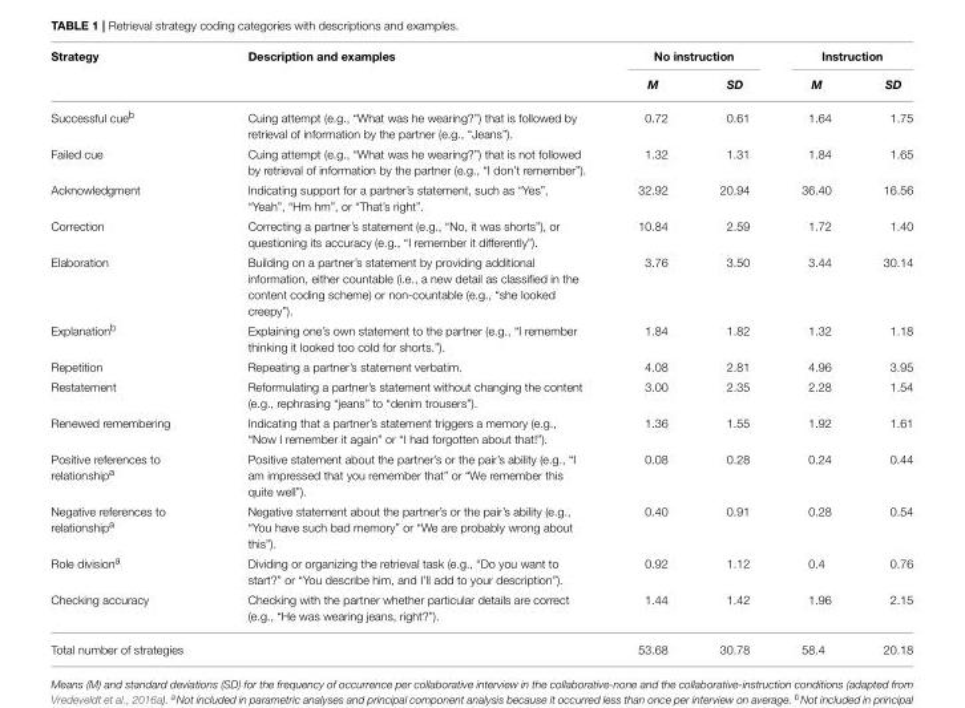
<table><thead><tr><td rowspan="2">Strategy</td><td rowspan="2">Description and examples</td><td colspan="2">No instruction</td><td colspan="2">Instruction</td></tr><tr><td>M</td><td>SD</td><td>M</td><td>SD</td></tr></thead><tbody><tr><td>Successful cue<sup>b</sup></td><td>Cuing attempt (e.g., “What was he wearing?”) that is followed by retrieval of information by the partner (e.g., “Jeans”).</td><td>0.72</td><td>0.61</td><td>1.64</td><td>1.75</td></tr><tr><td>Failed cue</td><td>Cuing attempt (e.g., “What was he wearing?”) that is not followed by retrieval of information by the partner (e.g., “I don’t remember”).</td><td>1.32</td><td>1.31</td><td>1.84</td><td>1.65</td></tr><tr><td>Acknowledgment</td><td>Indicating support for a partner’s statement, such as “Yes”, “Yeah”, “Hm hm”, or “That’s right”.</td><td>32.92</td><td>20.94</td><td>36.40</td><td>16.56</td></tr><tr><td>Correction</td><td>Correcting a partner’s statement (e.g., “No, it was shorts”), or questioning its accuracy (e.g., “I remember it differently”).</td><td>10.84</td><td>2.59</td><td>1.72</td><td>1.40</td></tr><tr><td>Elaboration</td><td>Building on a partner’s statement by providing additional information, either countable (i.e., a new detail as classified in the content coding scheme) or non-countable (e.g., “she looked creepy”).</td><td>3.76</td><td>3.50</td><td>3.44</td><td>30.14</td></tr><tr><td>Explanation<sup>b</sup></td><td>Explaining one’s own statement to the partner (e.g., “I remember thinking it looked too cold for shorts.”).</td><td>1.84</td><td>1.82</td><td>1.32</td><td>1.18</td></tr><tr><td>Repetition</td><td>Repeating a partner’s statement verbatim.</td><td>4.08</td><td>2.81</td><td>4.96</td><td>3.95</td></tr><tr><td>Restatement</td><td>Reformulating a partner’s statement without changing the content (e.g., rephrasing “jeans” to “denim trousers”).</td><td>3.00</td><td>2.35</td><td>2.28</td><td>1.54</td></tr><tr><td>Renewed remembering</td><td>Indicating that a partner’s statement triggers a memory (e.g., “Now I remember it again” or “I had forgotten about that!”).</td><td>1.36</td><td>1.55</td><td>1.92</td><td>1.61</td></tr><tr><td>Positive references to relationship<sup>a</sup></td><td>Positive statement about the partner’s or the pair’s ability (e.g., “I am impressed that you remember that” or “We remember this quite well”).</td><td>0.08</td><td>0.28</td><td>0.24</td><td>0.44</td></tr><tr><td>Negative references to relationship<sup>a</sup></td><td>Negative statement about the partner’s or the pair’s ability (e.g., “You have such bad memory” or “We are probably wrong about this”).</td><td>0.40</td><td>0.91</td><td>0.28</td><td>0.54</td></tr><tr><td>Role division<sup>a</sup></td><td>Dividing or organizing the retrieval task (e.g., “Do you want to start?” or “You describe him, and I’ll add to your description”).</td><td>0.92</td><td>1.12</td><td>0.4</td><td>0.76</td></tr><tr><td>Checking accuracy</td><td>Checking with the partner whether particular details are correct (e.g., “He was wearing jeans, right?”).</td><td>1.44</td><td>1.42</td><td>1.96</td><td>2.15</td></tr><tr><td>Total number of strategies</td><td></td><td>53.68</td><td>30.78</td><td>58.4</td><td>20.18</td></tr></tbody></table>